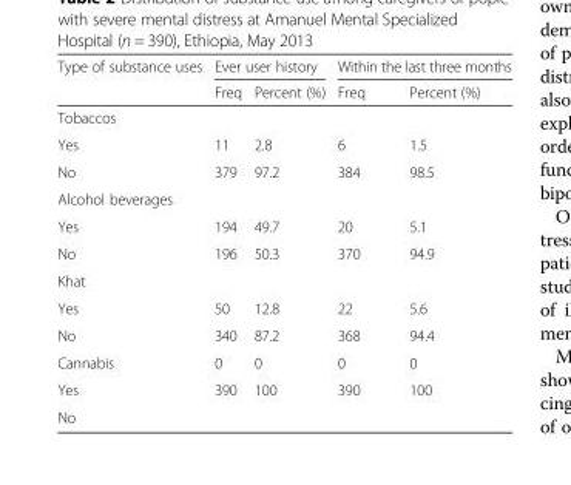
<table><thead><tr><td rowspan="2">Type of substance uses</td><td colspan="2">Ever user history</td><td colspan="2">Within the last three months</td></tr><tr><td>Freq</td><td>Percent (%)</td><td>Freq</td><td>Percent (%)</td></tr></thead><tbody><tr><td colspan="5">Tobaccos</td></tr><tr><td>Yes</td><td>11</td><td>2.8</td><td>6</td><td>1.5</td></tr><tr><td>No</td><td>379</td><td>97.2</td><td>384</td><td>98.5</td></tr><tr><td colspan="5">Alcohol beverages</td></tr><tr><td>Yes</td><td>194</td><td>49.7</td><td>20</td><td>5.1</td></tr><tr><td>No</td><td>196</td><td>50.3</td><td>370</td><td>94.9</td></tr><tr><td colspan="5">Khat</td></tr><tr><td>Yes</td><td>50</td><td>12.8</td><td>22</td><td>5.6</td></tr><tr><td>No</td><td>340</td><td>87.2</td><td>368</td><td>94.4</td></tr><tr><td>Cannabis</td><td>0</td><td>0</td><td>0</td><td>0</td></tr><tr><td>Yes</td><td>390</td><td>100</td><td>390</td><td>100</td></tr><tr><td>No</td><td></td><td></td><td></td><td></td></tr></tbody></table>